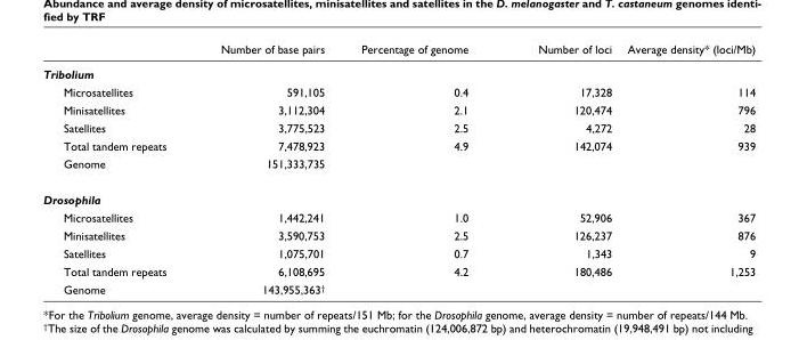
<table><thead><tr><td></td><td>Number of base pairs</td><td>Percentage of genome</td><td>Number of loci</td><td>Average density* (loci/Mb)</td></tr></thead><tbody><tr><td colspan="5">Tribolium</td></tr><tr><td>Microsatellites</td><td>591,105</td><td>0.4</td><td>17,328</td><td>114</td></tr><tr><td>Minisatellites</td><td>3,112,304</td><td>2.1</td><td>120,474</td><td>796</td></tr><tr><td>Satellites</td><td>3,775,523</td><td>2.5</td><td>4,272</td><td>28</td></tr><tr><td>Total tandem repeats</td><td>7,478,923</td><td>4.9</td><td>142,074</td><td>939</td></tr><tr><td>Genome</td><td>151,333,735</td><td></td><td></td><td></td></tr><tr><td colspan="5">Drosophila</td></tr><tr><td>Microsatellites</td><td>1,442,241</td><td>1.0</td><td>52,906</td><td>367</td></tr><tr><td>Minisatellites</td><td>3,590,753</td><td>2.5</td><td>126,237</td><td>876</td></tr><tr><td>Satellites</td><td>1,075,701</td><td>0.7</td><td>1,343</td><td>9</td></tr><tr><td>Total tandem repeats</td><td>6,108,695</td><td>4.2</td><td>180,486</td><td>1,253</td></tr><tr><td>Genome</td><td>143,955,363<sup>†</sup></td><td></td><td></td><td></td></tr></tbody></table>